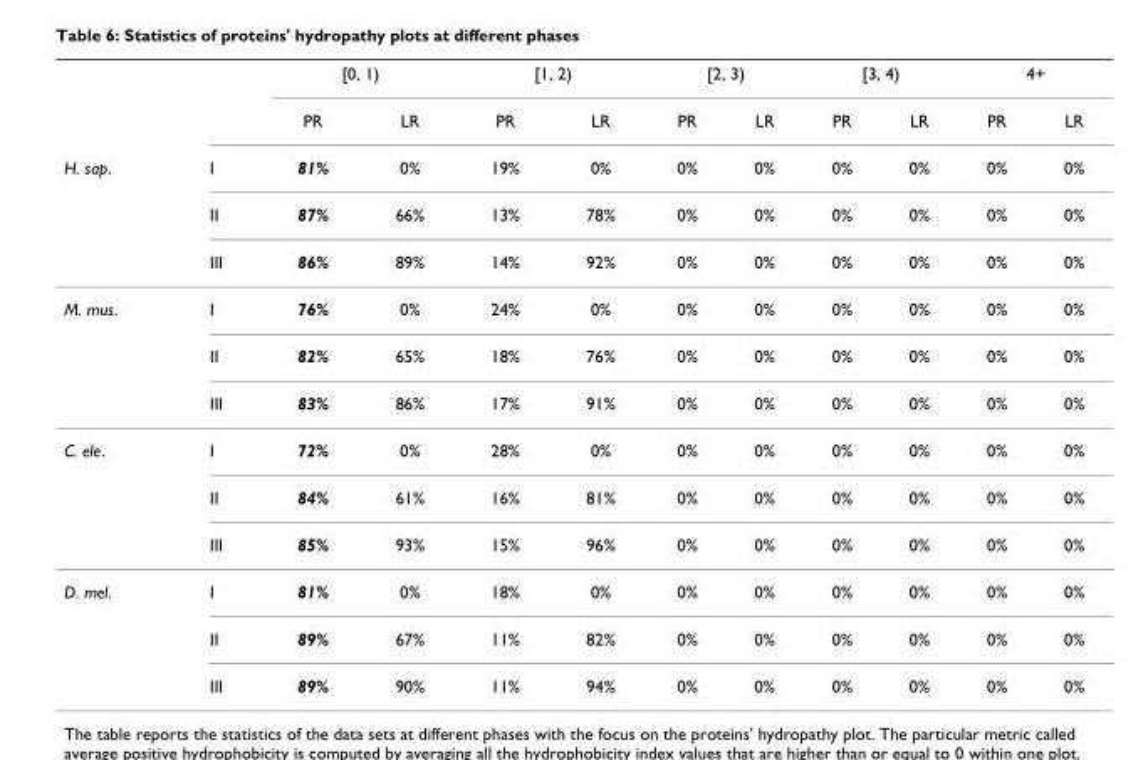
<table><thead><tr><td rowspan="5">H. sap.</td><td rowspan="5">I II III</td><td colspan="2">[0, 1)</td><td colspan="2">[1, 2)</td><td colspan="2">[2, 3)</td><td colspan="2">[3, 4)</td><td colspan="2">4+</td></tr><tr><td rowspan="4">PR 81% 87% 86%</td><td rowspan="4">LR 0% 66% 89%</td><td rowspan="4">PR 19% 13% 14%</td><td rowspan="4">LR 0% 78% 92%</td><td rowspan="4">PR 0% 0% 0%</td><td rowspan="4">LR 0% 0% 0%</td><td rowspan="4">PR 0% 0% 0%</td><td rowspan="4">LR 0% 0% 0%</td><td rowspan="4">PR 0% 0% 0%</td><td rowspan="4">LR 0% 0% 0%</td></tr><tr></tr><tr></tr><tr></tr></thead><tbody><tr><td rowspan="3">M. mus.</td><td>I</td><td>76%</td><td>0%</td><td>24%</td><td>0%</td><td>0%</td><td>0%</td><td>0%</td><td>0%</td><td>0%</td><td>0%</td></tr><tr><td>II</td><td>82%</td><td>65%</td><td>18%</td><td>76%</td><td>0%</td><td>0%</td><td>0%</td><td>0%</td><td>0%</td><td>0%</td></tr><tr><td>III</td><td>83%</td><td>86%</td><td>17%</td><td>91%</td><td>0%</td><td>0%</td><td>0%</td><td>0%</td><td>0%</td><td>0%</td></tr><tr><td rowspan="3">C. ele.</td><td>I</td><td>72%</td><td>0%</td><td>28%</td><td>0%</td><td>0%</td><td>0%</td><td>0%</td><td>0%</td><td>0%</td><td>0%</td></tr><tr><td>II</td><td>84%</td><td>61%</td><td>16%</td><td>81%</td><td>0%</td><td>0%</td><td>0%</td><td>0%</td><td>0%</td><td>0%</td></tr><tr><td>III</td><td>85%</td><td>93%</td><td>15%</td><td>96%</td><td>0%</td><td>0%</td><td>0%</td><td>0%</td><td>0%</td><td>0%</td></tr><tr><td rowspan="3">D. mel.</td><td>I</td><td>81%</td><td>0%</td><td>18%</td><td>0%</td><td>0%</td><td>0%</td><td>0%</td><td>0%</td><td>0%</td><td>0%</td></tr><tr><td>II</td><td>89%</td><td>67%</td><td>11%</td><td>82%</td><td>0%</td><td>0%</td><td>0%</td><td>0%</td><td>0%</td><td>0%</td></tr><tr><td>III</td><td>89%</td><td>90%</td><td>11%</td><td>94%</td><td>0%</td><td>0%</td><td>0%</td><td>0%</td><td>0%</td><td>0%</td></tr></tbody></table>